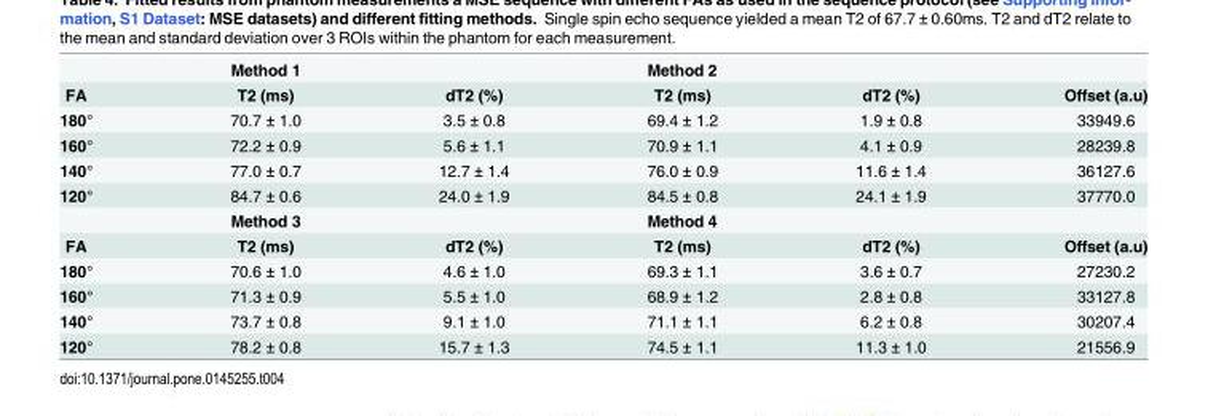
<table><thead><tr><td></td><td>Method 1</td><td></td><td>Method 2</td><td></td><td></td></tr></thead><tbody><tr><td>FA</td><td>T2 (ms)</td><td>dT2 (%)</td><td>T2 (ms)</td><td>dT2 (%)</td><td>Offset (a.u)</td></tr><tr><td>180°</td><td>70.7 ± 1.0</td><td>3.5 ± 0.8</td><td>69.4 ± 1.2</td><td>1.9 ± 0.8</td><td>33949.6</td></tr><tr><td>160°</td><td>72.2 ± 0.9</td><td>5.6 ± 1.1</td><td>70.9 ± 1.1</td><td>4.1 ± 0.9</td><td>28239.8</td></tr><tr><td>140°</td><td>77.0 ± 0.7</td><td>12.7 ± 1.4</td><td>76.0 ± 0.9</td><td>11.6 ± 1.4</td><td>36127.6</td></tr><tr><td rowspan="2">120°</td><td>84.7 ± 0.6</td><td>24.0 ± 1.9</td><td>84.5 ± 0.8</td><td>24.1 ± 1.9</td><td>37770.0</td></tr><tr><td>Method 3</td><td></td><td>Method 4</td><td></td><td></td></tr><tr><td>FA</td><td>T2 (ms)</td><td>dT2 (%)</td><td>T2 (ms)</td><td>dT2 (%)</td><td>Offset (a.u)</td></tr><tr><td>180°</td><td>70.6 ± 1.0</td><td>4.6 ± 1.0</td><td>69.3 ± 1.1</td><td>3.6 ± 0.7</td><td>27230.2</td></tr><tr><td>160°</td><td>71.3 ± 0.9</td><td>5.5 ± 1.0</td><td>68.9 ± 1.2</td><td>2.8 ± 0.8</td><td>33127.8</td></tr><tr><td>140°</td><td>73.7 ± 0.8</td><td>9.1 ± 1.0</td><td>71.1 ± 1.1</td><td>6.2 ± 0.8</td><td>30207.4</td></tr><tr><td>120°</td><td>78.2 ± 0.8</td><td>15.7 ± 1.3</td><td>74.5 ± 1.1</td><td>11.3 ± 1.0</td><td>21556.9</td></tr></tbody></table>